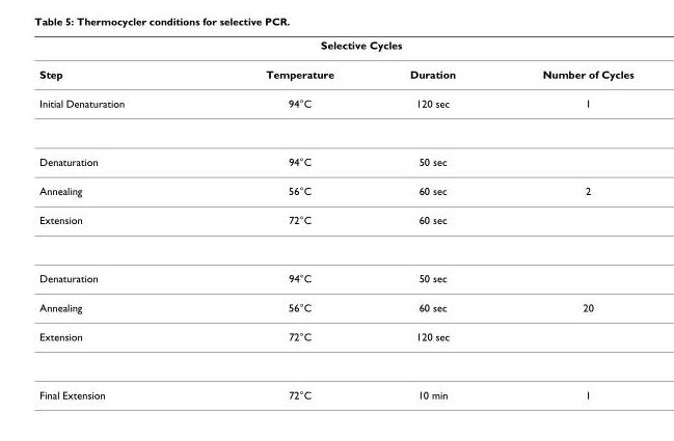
<table><thead><tr><td colspan="4">Selective Cycles</td></tr><tr><td>Step</td><td>Temperature</td><td>Duration</td><td>Number of Cycles</td></tr></thead><tbody><tr><td>Initial Denaturation</td><td>94°C</td><td>120 sec</td><td>1</td></tr><tr><td>Denaturation</td><td>94°C</td><td>50 sec</td><td></td></tr><tr><td>Annealing</td><td>56°C</td><td>60 sec</td><td>2</td></tr><tr><td>Extension</td><td>72°C</td><td>60 sec</td><td></td></tr><tr><td>Denaturation</td><td>94°C</td><td>50 sec</td><td></td></tr><tr><td>Annealing</td><td>56°C</td><td>60 sec</td><td>20</td></tr><tr><td>Extension</td><td>72°C</td><td>120 sec</td><td></td></tr><tr><td>Final Extension</td><td>72°C</td><td>10 min</td><td>1</td></tr></tbody></table>